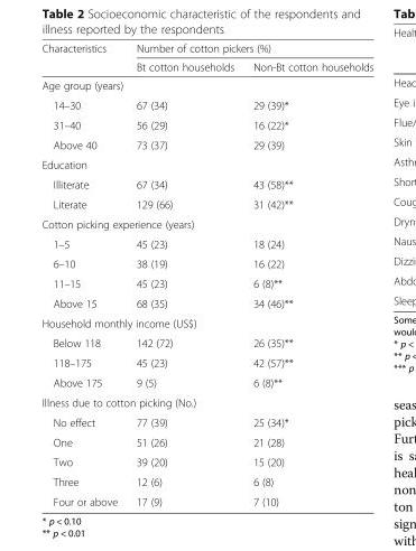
<table><thead><tr><td rowspan="2">Characteristics</td><td colspan="2">Number of cotton pickers (%)</td></tr><tr><td>Bt cotton households</td><td>Non-Bt cotton households</td></tr></thead><tbody><tr><td colspan="3">Age group (years)</td></tr><tr><td>14–30</td><td>67 (34)</td><td>29 (39)*</td></tr><tr><td>31–40</td><td>56 (29)</td><td>16 (22)*</td></tr><tr><td>Above 40</td><td>73 (37)</td><td>29 (39)</td></tr><tr><td colspan="3">Education</td></tr><tr><td>Illiterate</td><td>67 (34)</td><td>43 (58)**</td></tr><tr><td>Literate</td><td>129 (66)</td><td>31 (42)**</td></tr><tr><td colspan="3">Cotton picking experience (years)</td></tr><tr><td>1–5</td><td>45 (23)</td><td>18 (24)</td></tr><tr><td>6–10</td><td>38 (19)</td><td>16 (22)</td></tr><tr><td>11–15</td><td>45 (23)</td><td>6 (8)**</td></tr><tr><td>Above 15</td><td>68 (35)</td><td>34 (46)**</td></tr><tr><td colspan="3">Household monthly income (US$)</td></tr><tr><td>Below 118</td><td>142 (72)</td><td>26 (35)**</td></tr><tr><td>118–175</td><td>45 (23)</td><td>42 (57)**</td></tr><tr><td>Above 175</td><td>9 (5)</td><td>6 (8)**</td></tr><tr><td colspan="3">Illness due to cotton picking (No.)</td></tr><tr><td>No effect</td><td>77 (39)</td><td>25 (34)*</td></tr><tr><td>One</td><td>51 (26)</td><td>21 (28)</td></tr><tr><td>Two</td><td>39 (20)</td><td>15 (20)</td></tr><tr><td>Three</td><td>12 (6)</td><td>6 (8)</td></tr><tr><td>Four or above</td><td>17 (9)</td><td>7 (10)</td></tr></tbody></table>